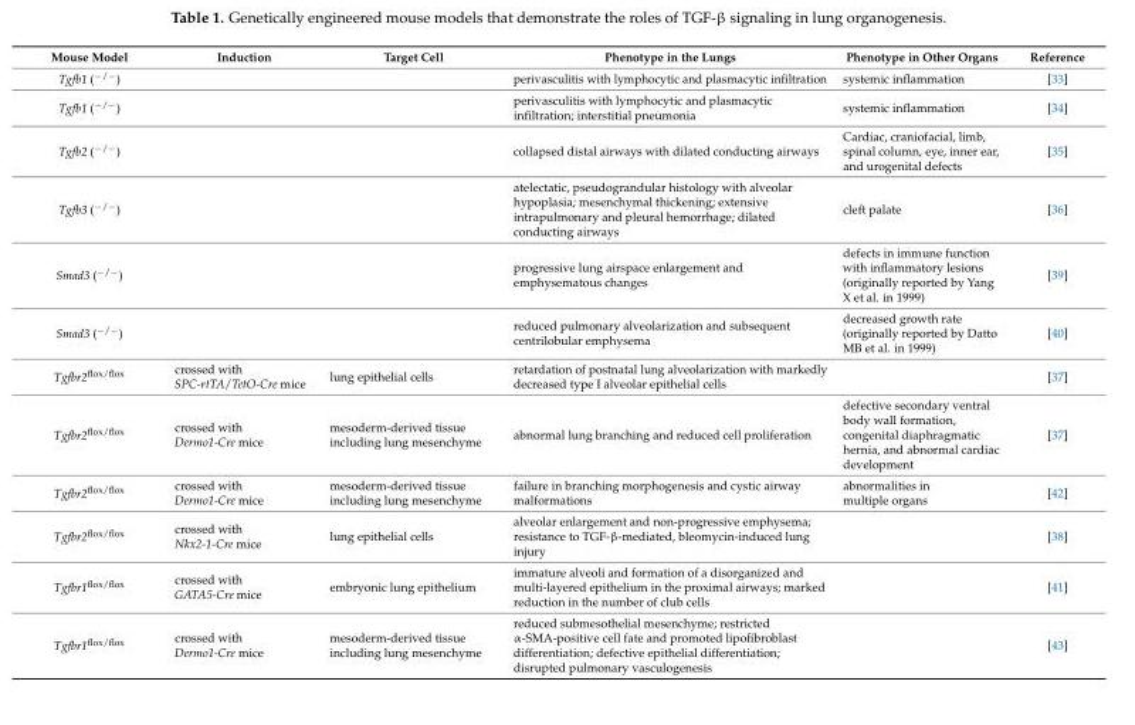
<table><thead><tr><td>Mouse Model</td><td>Induction</td><td>Target Cell</td><td>Phenotype in the Lungs</td><td>Phenotype in Other Organs</td><td>Reference</td></tr></thead><tbody><tr><td>Tgfb1 (<sup>−/−</sup>)</td><td></td><td></td><td>perivasculitis with lymphocytic and plasmacytic infiltration</td><td>systemic inflammation</td><td>[33]</td></tr><tr><td>Tgfb1 (<sup>−/−</sup>)</td><td></td><td></td><td>perivasculitis with lymphocytic and plasmacytic infiltration; interstitial pneumonia</td><td>systemic inflammation</td><td>[34]</td></tr><tr><td>Tgfb2 (<sup>−/−</sup>)</td><td></td><td></td><td>collapsed distal airways with dilated conducting airways</td><td>Cardiac, craniofacial, limb, spinal column, eye, inner ear, and urogenital defects</td><td>[35]</td></tr><tr><td>Tgfb3 (<sup>−/−</sup>)</td><td></td><td></td><td>atelectatic, pseudograndular histology with alveolar hypoplasia; mesenchymal thickening; extensive intrapulmonary and pleural hemorrhage; dilated conducting airways</td><td>cleft palate</td><td>[36]</td></tr><tr><td>Smad3 (<sup>−/−</sup>)</td><td></td><td></td><td>progressive lung airspace enlargement and emphysematous changes</td><td>defects in immune function with inflammatory lesions (originally reported by Yang X et al. in 1999)</td><td>[39]</td></tr><tr><td>Smad3 (<sup>−/−</sup>)</td><td></td><td></td><td>reduced pulmonary alveolarization and subsequent centrilobular emphysema</td><td>decreased growth rate (originally reported by Datto MB et al. in 1999)</td><td>[40]</td></tr><tr><td>Tgfbr2<sup>flox/flox</sup></td><td>crossed with SPC-rtTA/TetO-Cre mice</td><td>lung epithelial cells</td><td>retardation of postnatal lung alveolarization with markedly decreased type I alveolar epithelial cells</td><td></td><td>[37]</td></tr><tr><td>Tgfbr2<sup>flox/flox</sup></td><td>crossed with Dermo1-Cre mice</td><td>mesoderm-derived tissue including lung mesenchyme</td><td>abnormal lung branching and reduced cell proliferation</td><td>defective secondary ventral body wall formation, congenital diaphragmatic hernia, and abnormal cardiac development</td><td>[37]</td></tr><tr><td>Tgfbr2<sup>flox/flox</sup></td><td>crossed with Dermo1-Cre mice</td><td>mesoderm-derived tissue including lung mesenchyme</td><td>failure in branching morphogenesis and cystic airway malformations</td><td>abnormalities in multiple organs</td><td>[42]</td></tr><tr><td>Tgfbr2<sup>flox/flox</sup></td><td>crossed with Nkx2-1-Cre mice</td><td>lung epithelial cells</td><td>alveolar enlargement and non-progressive emphysema; resistance to TGF-β-mediated, bleomycin-induced lung injury</td><td></td><td>[38]</td></tr><tr><td>Tgfbr1<sup>flox/flox</sup></td><td>crossed with GATA5-Cre mice</td><td>embryonic lung epithelium</td><td>immature alveoli and formation of a disorganized and multi-layered epithelium in the proximal airways; marked reduction in the number of club cells</td><td></td><td>[41]</td></tr><tr><td>Tgfbr1<sup>flox/flox</sup></td><td>crossed with Dermo1-Cre mice</td><td>mesoderm-derived tissue including lung mesenchyme</td><td>reduced submesothelial mesenchyme; restricted α-SMA-positive cell fate and promoted lipofibroblast differentiation; defective epithelial differentiation; disrupted pulmonary vasculogenesis</td><td></td><td>[43]</td></tr></tbody></table>